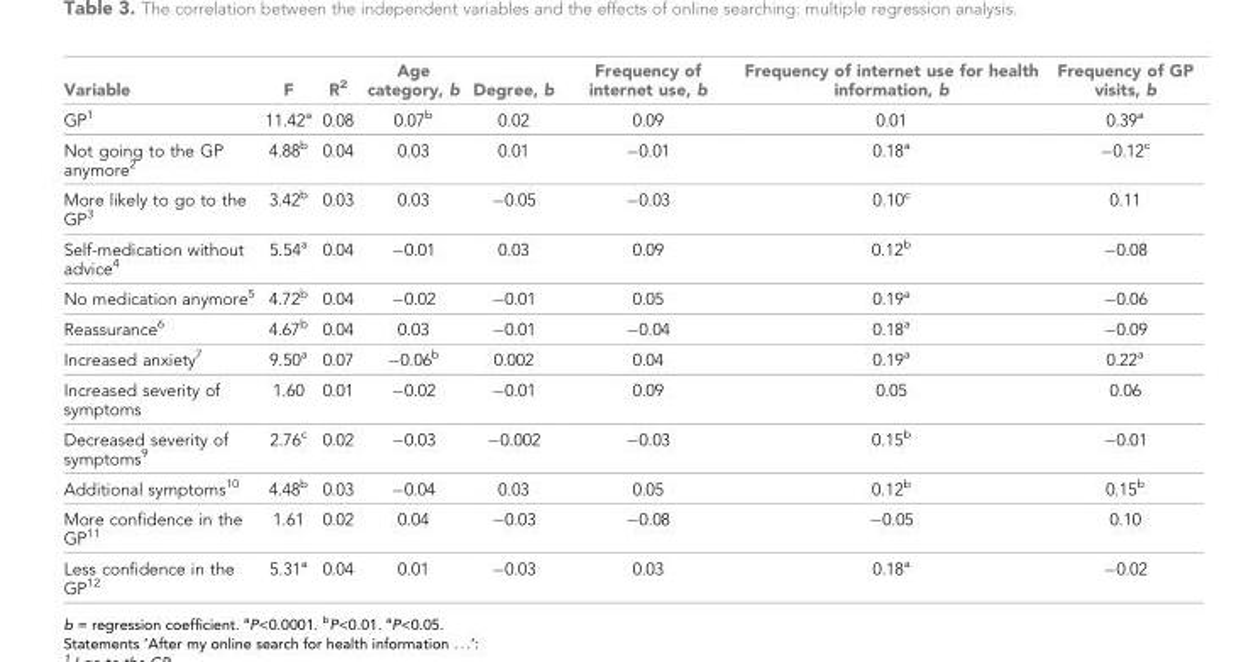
<table><thead><tr><td>Variable</td><td>F</td><td>R<sup>2</sup></td><td>Age category, b</td><td>Degree, b</td><td>Frequency of internet use, b</td><td>Frequency of internet use for health information, b</td><td>Frequency of GP visits, b</td></tr></thead><tbody><tr><td>GP<sup>1</sup></td><td>11.42<sup>a</sup></td><td>0.08</td><td>0.07<sup>b</sup></td><td>0.02</td><td>0.09</td><td>0.01</td><td>0.39<sup>a</sup></td></tr><tr><td>Not going to the GP anymore<sup>2</sup></td><td>4.88<sup>b</sup></td><td>0.04</td><td>0.03</td><td>0.01</td><td>−0.01</td><td>0.18<sup>a</sup></td><td>−0.12<sup>c</sup></td></tr><tr><td>More likely to go to the GP<sup>3</sup></td><td>3.42<sup>b</sup></td><td>0.03</td><td>0.03</td><td>−0.05</td><td>−0.03</td><td>0.10<sup>c</sup></td><td>0.11</td></tr><tr><td>Self-medication without advice<sup>4</sup></td><td>5.54<sup>a</sup></td><td>0.04</td><td>−0.01</td><td>0.03</td><td>0.09</td><td>0.12<sup>b</sup></td><td>−0.08</td></tr><tr><td>No medication anymore<sup>5</sup></td><td>4.72<sup>b</sup></td><td>0.04</td><td>−0.02</td><td>−0.01</td><td>0.05</td><td>0.19<sup>a</sup></td><td>−0.06</td></tr><tr><td>Reassurance<sup>6</sup></td><td>4.67<sup>b</sup></td><td>0.04</td><td>0.03</td><td>−0.01</td><td>−0.04</td><td>0.18<sup>a</sup></td><td>−0.09</td></tr><tr><td>Increased anxiety<sup>7</sup></td><td>9.50<sup>a</sup></td><td>0.07</td><td>−0.06<sup>b</sup></td><td>0.002</td><td>0.04</td><td>0.19<sup>a</sup></td><td>0.22<sup>a</sup></td></tr><tr><td>Increased severity of symptoms</td><td>1.60</td><td>0.01</td><td>−0.02</td><td>−0.01</td><td>0.09</td><td>0.05</td><td>0.06</td></tr><tr><td>Decreased severity of symptoms<sup>9</sup></td><td>2.76<sup>c</sup></td><td>0.02</td><td>−0.03</td><td>−0.002</td><td>−0.03</td><td>0.15<sup>b</sup></td><td>−0.01</td></tr><tr><td>Additional symptoms<sup>10</sup></td><td>4.48<sup>b</sup></td><td>0.03</td><td>−0.04</td><td>0.03</td><td>0.05</td><td>0.12<sup>b</sup></td><td>0.15<sup>b</sup></td></tr><tr><td>More confidence in the GP<sup>11</sup></td><td>1.61</td><td>0.02</td><td>0.04</td><td>−0.03</td><td>−0.08</td><td>−0.05</td><td>0.10</td></tr><tr><td>Less confidence in the GP<sup>12</sup></td><td>5.31<sup>a</sup></td><td>0.04</td><td>0.01</td><td>−0.03</td><td>0.03</td><td>0.18<sup>a</sup></td><td>−0.02</td></tr></tbody></table>